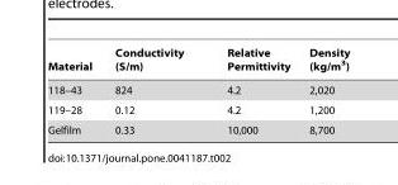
<table><thead><tr><td>Material</td><td>Conductivity (S/m)</td><td>Relative Permittivity</td><td>Density (kg/m<sup>3</sup>)</td></tr></thead><tbody><tr><td>118–43</td><td>824</td><td>4.2</td><td>2,020</td></tr><tr><td>119–28</td><td>0.12</td><td>4.2</td><td>1,200</td></tr><tr><td>Gelfilm</td><td>0.33</td><td>10,000</td><td>8,700</td></tr></tbody></table>